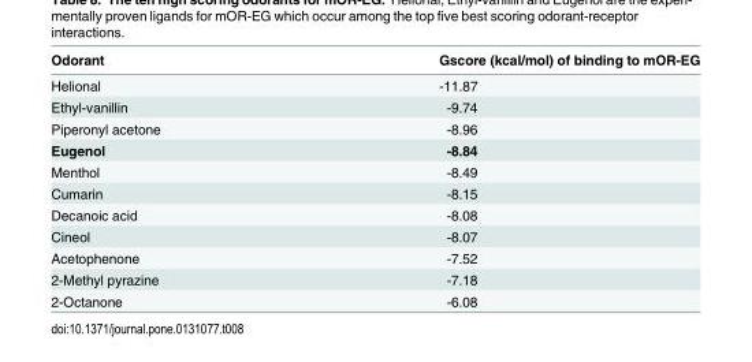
<table><thead><tr><td>Odorant</td><td>Gscore (kcal/mol) of binding to mOR-EG</td></tr></thead><tbody><tr><td>Helional</td><td>-11.87</td></tr><tr><td>Ethyl-vanillin</td><td>-9.74</td></tr><tr><td>Piperonyl acetone</td><td>-8.96</td></tr><tr><td>Eugenol</td><td>-8.84</td></tr><tr><td>Menthol</td><td>-8.49</td></tr><tr><td>Cumarin</td><td>-8.15</td></tr><tr><td>Decanoic acid</td><td>-8.08</td></tr><tr><td>Cineol</td><td>-8.07</td></tr><tr><td>Acetophenone</td><td>-7.52</td></tr><tr><td>2-Methyl pyrazine</td><td>-7.18</td></tr><tr><td>2-Octanone</td><td>-6.08</td></tr></tbody></table>